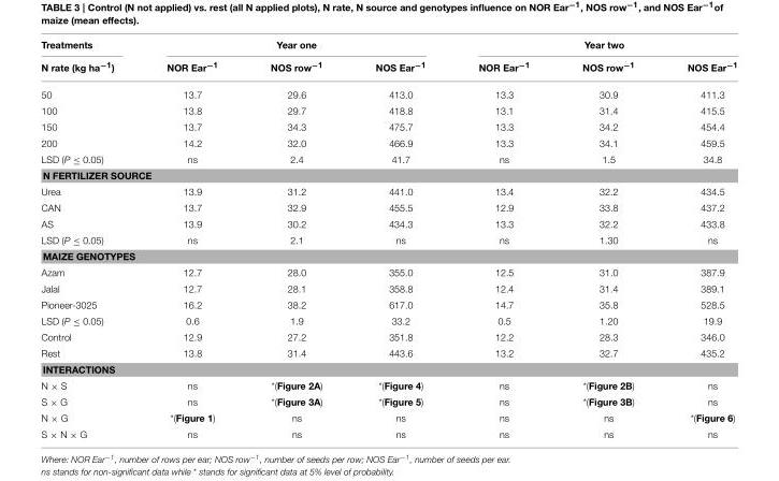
<table><thead><tr><td rowspan="2">Treatments N rate (kg ha<sup>−1</sup>)</td><td colspan="3">Year one</td><td colspan="3">Year two</td></tr><tr><td>NOR Ear<sup>−1</sup></td><td>NOS row<sup>−1</sup></td><td>NOS Ear<sup>−1</sup></td><td>NOR Ear<sup>−1</sup></td><td>NOS row<sup>−1</sup></td><td>NOS Ear<sup>−1</sup></td></tr></thead><tbody><tr><td>50</td><td>13.7</td><td>29.6</td><td>413.0</td><td>13.3</td><td>30.9</td><td>411.3</td></tr><tr><td>100</td><td>13.8</td><td>29.7</td><td>418.8</td><td>13.1</td><td>31.4</td><td>415.5</td></tr><tr><td>150</td><td>13.7</td><td>34.3</td><td>475.7</td><td>13.3</td><td>34.2</td><td>454.4</td></tr><tr><td>200</td><td>14.2</td><td>32.0</td><td>466.9</td><td>13.3</td><td>34.1</td><td>459.5</td></tr><tr><td>LSD (P ≤ 0.05)</td><td>ns</td><td>2.4</td><td>41.7</td><td>ns</td><td>1.5</td><td>34.8</td></tr><tr><td colspan="7">N FERTILIZER SOURCE</td></tr><tr><td>Urea</td><td>13.9</td><td>31.2</td><td>441.0</td><td>13.4</td><td>32.2</td><td>434.5</td></tr><tr><td>CAN</td><td>13.7</td><td>32.9</td><td>455.5</td><td>12.9</td><td>33.8</td><td>437.2</td></tr><tr><td>AS</td><td>13.9</td><td>30.2</td><td>434.3</td><td>13.3</td><td>32.2</td><td>433.8</td></tr><tr><td>LSD (P ≤ 0.05)</td><td>ns</td><td>2.1</td><td>ns</td><td>ns</td><td>1.30</td><td>ns</td></tr><tr><td colspan="7">MAIZE GENOTYPES</td></tr><tr><td>Azam</td><td>12.7</td><td>28.0</td><td>355.0</td><td>12.5</td><td>31.0</td><td>387.9</td></tr><tr><td>Jalal</td><td>12.7</td><td>28.1</td><td>358.8</td><td>12.4</td><td>31.4</td><td>389.1</td></tr><tr><td>Pioneer-3025</td><td>16.2</td><td>38.2</td><td>617.0</td><td>14.7</td><td>35.8</td><td>528.5</td></tr><tr><td>LSD (P ≤ 0.05)</td><td>0.6</td><td>1.9</td><td>33.2</td><td>0.5</td><td>1.20</td><td>19.9</td></tr><tr><td>Control</td><td>12.9</td><td>27.2</td><td>351.8</td><td>12.2</td><td>28.3</td><td>346.0</td></tr><tr><td>Rest</td><td>13.8</td><td>31.4</td><td>443.6</td><td>13.2</td><td>32.7</td><td>435.2</td></tr><tr><td colspan="7">INTERACTIONS</td></tr><tr><td>N × S</td><td>ns</td><td>*(Figure 2A)</td><td>*(Figure 4)</td><td>ns</td><td>*(Figure 2B)</td><td>ns</td></tr><tr><td>S × G</td><td>ns</td><td>*(Figure 3A)</td><td>*(Figure 5)</td><td>ns</td><td>*(Figure 3B)</td><td>ns</td></tr><tr><td>N × G</td><td>*(Figure 1)</td><td>ns</td><td>ns</td><td>ns</td><td>ns</td><td>*(Figure 6)</td></tr><tr><td>S × N × G</td><td>ns</td><td>ns</td><td>ns</td><td>ns</td><td>ns</td><td>ns</td></tr></tbody></table>